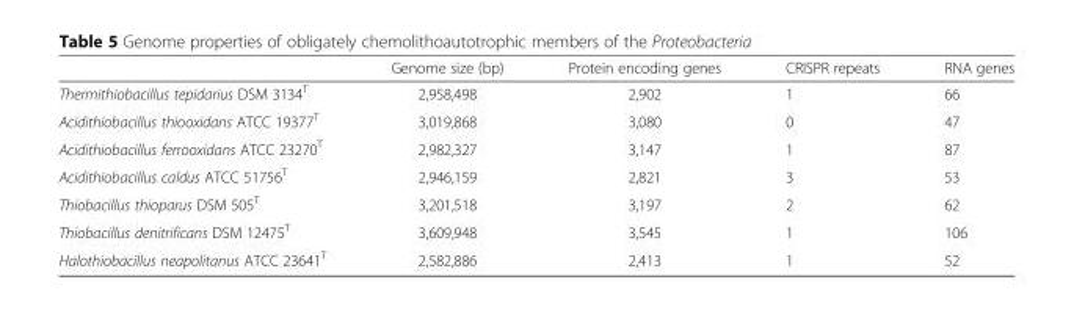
<table><thead><tr><td></td><td>Genome size (bp)</td><td>Protein encoding genes</td><td>CRISPR repeats</td><td>RNA genes</td></tr></thead><tbody><tr><td>Thermithiobacillus tepidarius DSM 3134<sup>T</sup></td><td>2,958,498</td><td>2,902</td><td>1</td><td>66</td></tr><tr><td>Acidithiobacillus thiooxidans ATCC 19377<sup>T</sup></td><td>3,019,868</td><td>3,080</td><td>0</td><td>47</td></tr><tr><td>Acidithiobacillus ferrooxidans ATCC 23270<sup>T</sup></td><td>2,982,327</td><td>3,147</td><td>1</td><td>87</td></tr><tr><td>Acidithiobacillus caldus ATCC 51756<sup>T</sup></td><td>2,946,159</td><td>2,821</td><td>3</td><td>53</td></tr><tr><td>Thiobacillus thioparus DSM 505<sup>T</sup></td><td>3,201,518</td><td>3,197</td><td>2</td><td>62</td></tr><tr><td>Thiobacillus denitrificans DSM 12475<sup>T</sup></td><td>3,609,948</td><td>3,545</td><td>1</td><td>106</td></tr><tr><td>Halothiobacillus neapolitanus ATCC 23641<sup>T</sup></td><td>2,582,886</td><td>2,413</td><td>1</td><td>52</td></tr></tbody></table>